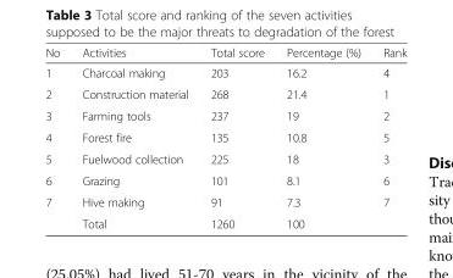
<table><thead><tr><td>No</td><td>Activities</td><td>Total score</td><td>Percentage (%)</td><td>Rank</td></tr></thead><tbody><tr><td>1</td><td>Charcoal making</td><td>203</td><td>16.2</td><td>4</td></tr><tr><td>2</td><td>Construction material</td><td>268</td><td>21.4</td><td>1</td></tr><tr><td>3</td><td>Farming tools</td><td>237</td><td>19</td><td>2</td></tr><tr><td>4</td><td>Forest fire</td><td>135</td><td>10.8</td><td>5</td></tr><tr><td>5</td><td>Fuelwood collection</td><td>225</td><td>18</td><td>3</td></tr><tr><td>6</td><td>Grazing</td><td>101</td><td>8.1</td><td>6</td></tr><tr><td rowspan="2">7</td><td>Hive making</td><td>91</td><td>7.3</td><td>7</td></tr><tr><td>Total</td><td>1260</td><td>100</td><td></td></tr></tbody></table>